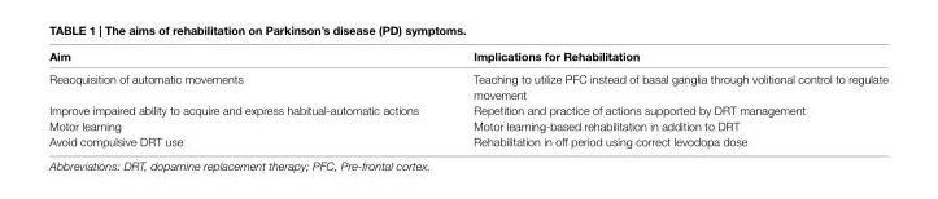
<table><thead><tr><td>Aim</td><td>Implications for Rehabilitation</td></tr></thead><tbody><tr><td>Reacquisition of automatic movements</td><td>Teaching to utilize PFC instead of basal ganglia through volitional control to regulate movement</td></tr><tr><td>Improve impaired ability to acquire and express habitual-automatic actions</td><td>Repetition and practice of actions supported by DRT management</td></tr><tr><td>Motor learning</td><td>Motor learning-based rehabilitation in addition to DRT</td></tr><tr><td>Avoid compulsive DRT use</td><td>Rehabilitation in off period using correct levodopa dose</td></tr></tbody></table>